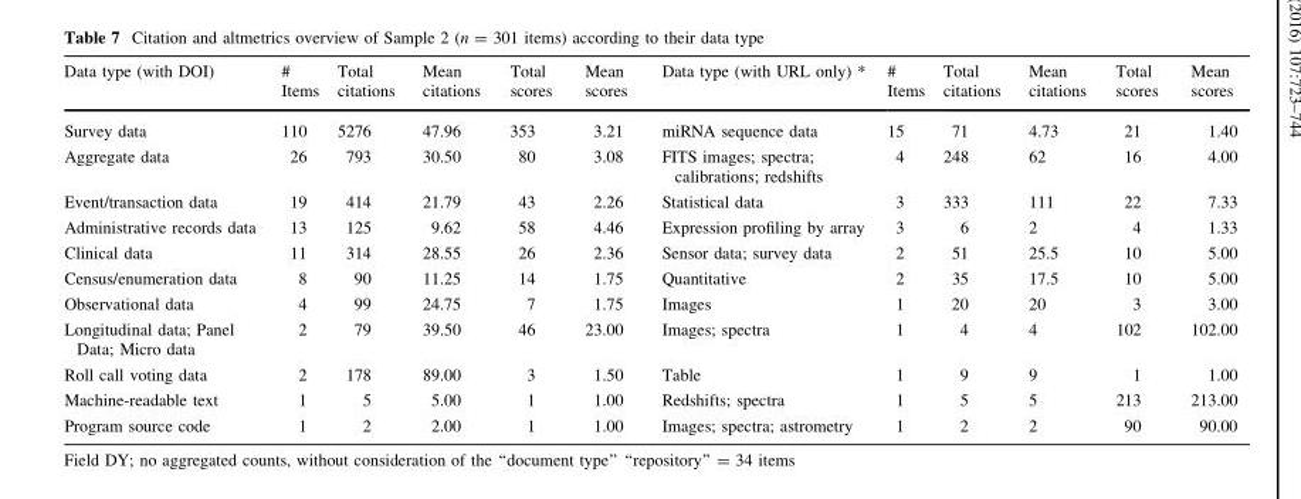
<table><thead><tr><td>Data type (with DOI)</td><td># Items</td><td>Total citations</td><td>Mean citations</td><td>Total scores</td><td>Mean scores</td><td>Data type (with URL only) *</td><td># Items</td><td>Total citations</td><td>Mean citations</td><td>Total scores</td><td>Mean scores</td></tr></thead><tbody><tr><td>Survey data</td><td>110</td><td>5276</td><td>47.96</td><td>353</td><td>3.21</td><td>miRNA sequence data</td><td>15</td><td>71</td><td>4.73</td><td>21</td><td>1.40</td></tr><tr><td>Aggregate data</td><td>26</td><td>793</td><td>30.50</td><td>80</td><td>3.08</td><td>FITS images; spectra; calibrations; redshifts</td><td>4</td><td>248</td><td>62</td><td>16</td><td>4.00</td></tr><tr><td>Event/transaction data</td><td>19</td><td>414</td><td>21.79</td><td>43</td><td>2.26</td><td>Statistical data</td><td>3</td><td>333</td><td>111</td><td>22</td><td>7.33</td></tr><tr><td>Administrative records data</td><td>13</td><td>125</td><td>9.62</td><td>58</td><td>4.46</td><td>Expression profiling by array</td><td>3</td><td>6</td><td>2</td><td>4</td><td>1.33</td></tr><tr><td>Clinical data</td><td>11</td><td>314</td><td>28.55</td><td>26</td><td>2.36</td><td>Sensor data; survey data</td><td>2</td><td>51</td><td>25.5</td><td>10</td><td>5.00</td></tr><tr><td>Census/enumeration data</td><td>8</td><td>90</td><td>11.25</td><td>14</td><td>1.75</td><td>Quantitative</td><td>2</td><td>35</td><td>17.5</td><td>10</td><td>5.00</td></tr><tr><td>Observational data</td><td>4</td><td>99</td><td>24.75</td><td>7</td><td>1.75</td><td>Images</td><td>1</td><td>20</td><td>20</td><td>3</td><td>3.00</td></tr><tr><td>Longitudinal data; Panel Data; Micro data</td><td>2</td><td>79</td><td>39.50</td><td>46</td><td>23.00</td><td>Images; spectra</td><td>1</td><td>4</td><td>4</td><td>102</td><td>102.00</td></tr><tr><td>Roll call voting data</td><td>2</td><td>178</td><td>89.00</td><td>3</td><td>1.50</td><td>Table</td><td>1</td><td>9</td><td>9</td><td>1</td><td>1.00</td></tr><tr><td>Machine-readable text</td><td>1</td><td>5</td><td>5.00</td><td>1</td><td>1.00</td><td>Redshifts; spectra</td><td>1</td><td>5</td><td>5</td><td>213</td><td>213.00</td></tr><tr><td>Program source code</td><td>1</td><td>2</td><td>2.00</td><td>1</td><td>1.00</td><td>Images; spectra; astrometry</td><td>1</td><td>2</td><td>2</td><td>90</td><td>90.00</td></tr></tbody></table>